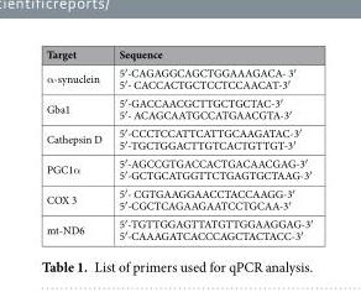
<table><thead><tr><td>Target</td><td>Sequence</td></tr></thead><tbody><tr><td>α-synuclein</td><td>5′-CAGAGGCAGCTGGAAAGACA- 3′ 5′- CACCACTGCTCCTCCAACAT-3′</td></tr><tr><td>Gba1</td><td>5′-GACCAACGCTTGCTGCTAC-3′ 5′- ACAGCAATGCCATGAACGTA-3′</td></tr><tr><td>Cathepsin D</td><td>5′-CCCTCCATTCATTGCAAGATAC-3′ 5′-TGCTGGACTTGTCACTGTTGT-3′</td></tr><tr><td>PGC1α</td><td>5′-AGCCGTGACCACTGACAACGAG-3′ 5′-GCTGCATGGTTCTGAGTGCTAAG-3′</td></tr><tr><td>COX 3</td><td>5′- CGTGAAGGAACCTACCAAGG-3′ 5′-CGCTCAGAAGAATCCTGCAA-3′</td></tr><tr><td>mt-ND6</td><td>5′-TGTTGGAGTTATGTTGGAAGGAG-3′ 5′-CAAAGATCACCCAGCTACTACC-3′</td></tr></tbody></table>